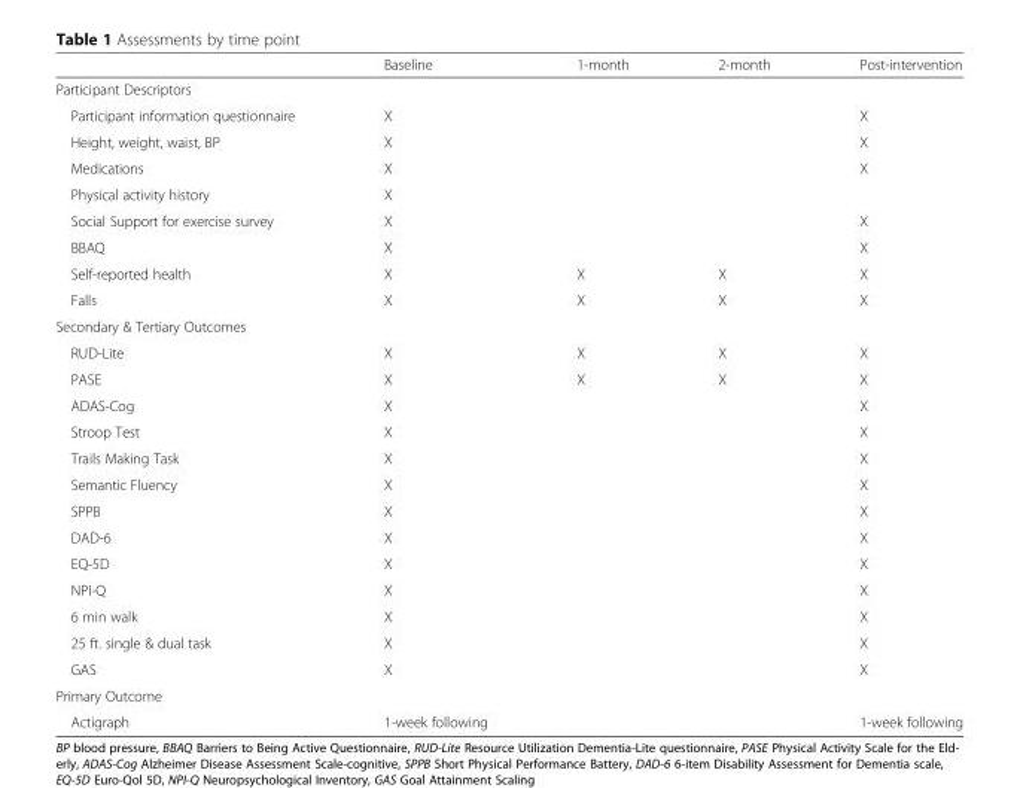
<table><thead><tr><td></td><td>Baseline</td><td>1-month</td><td>2-month</td><td>Post-intervention</td></tr></thead><tbody><tr><td colspan="5">Participant Descriptors</td></tr><tr><td>Participant information questionnaire</td><td>X</td><td></td><td></td><td>X</td></tr><tr><td>Height, weight, waist, BP</td><td>X</td><td></td><td></td><td>X</td></tr><tr><td>Medications</td><td>X</td><td></td><td></td><td>X</td></tr><tr><td>Physical activity history</td><td>X</td><td></td><td></td><td></td></tr><tr><td>Social Support for exercise survey</td><td>X</td><td></td><td></td><td>X</td></tr><tr><td>BBAQ</td><td>X</td><td></td><td></td><td>X</td></tr><tr><td>Self-reported health</td><td>X</td><td>X</td><td>X</td><td>X</td></tr><tr><td>Falls</td><td>X</td><td>X</td><td>X</td><td>X</td></tr><tr><td colspan="5">Secondary &amp; Tertiary Outcomes</td></tr><tr><td>RUD-Lite</td><td>X</td><td>X</td><td>X</td><td>X</td></tr><tr><td>PASE</td><td>X</td><td>X</td><td>X</td><td>X</td></tr><tr><td>ADAS-Cog</td><td>X</td><td></td><td></td><td>X</td></tr><tr><td>Stroop Test</td><td>X</td><td></td><td></td><td>X</td></tr><tr><td>Trails Making Task</td><td>X</td><td></td><td></td><td>X</td></tr><tr><td>Semantic Fluency</td><td>X</td><td></td><td></td><td>X</td></tr><tr><td>SPPB</td><td>X</td><td></td><td></td><td>X</td></tr><tr><td>DAD-6</td><td>X</td><td></td><td></td><td>X</td></tr><tr><td>EQ-5D</td><td>X</td><td></td><td></td><td>X</td></tr><tr><td>NPI-Q</td><td>X</td><td></td><td></td><td>X</td></tr><tr><td>6 min walk</td><td>X</td><td></td><td></td><td>X</td></tr><tr><td>25 ft. single &amp; dual task</td><td>X</td><td></td><td></td><td>X</td></tr><tr><td>GAS</td><td>X</td><td></td><td></td><td>X</td></tr><tr><td colspan="5">Primary Outcome</td></tr><tr><td>Actigraph</td><td>1-week following</td><td></td><td></td><td>1-week following</td></tr></tbody></table>